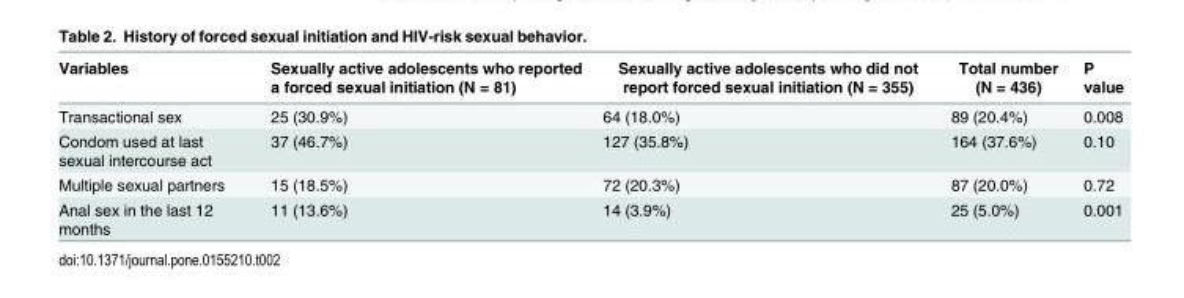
<table><thead><tr><td>Variables</td><td>Sexually active adolescents who reported a forced sexual initiation (N = 81)</td><td>Sexually active adolescents who did not report forced sexual initiation (N = 355)</td><td>Total number (N = 436)</td><td>P value</td></tr></thead><tbody><tr><td>Transactional sex</td><td>25 (30.9%)</td><td>64 (18.0%)</td><td>89 (20.4%)</td><td>0.008</td></tr><tr><td>Condom used at last sexual intercourse act</td><td>37 (46.7%)</td><td>127 (35.8%)</td><td>164 (37.6%)</td><td>0.10</td></tr><tr><td>Multiple sexual partners</td><td>15 (18.5%)</td><td>72 (20.3%)</td><td>87 (20.0%)</td><td>0.72</td></tr><tr><td>Anal sex in the last 12 months</td><td>11 (13.6%)</td><td>14 (3.9%)</td><td>25 (5.0%)</td><td>0.001</td></tr></tbody></table>